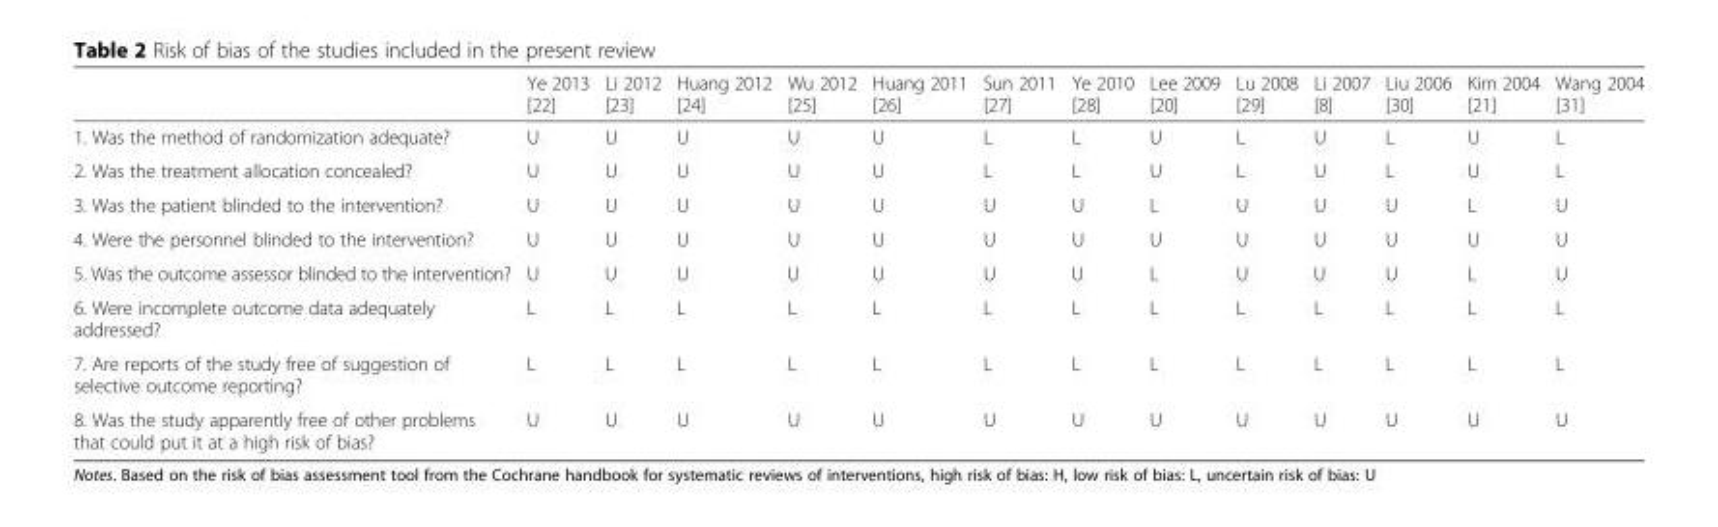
<table><thead><tr><td></td><td>Ye 2013 [22]</td><td>Li 2012 [23]</td><td>Huang 2012 [24]</td><td>Wu 2012 [25]</td><td>Huang 2011 [26]</td><td>Sun 2011 [27]</td><td>Ye 2010 [28]</td><td>Lee 2009 [20]</td><td>Lu 2008 [29]</td><td>Li 2007 [8]</td><td>Liu 2006 [30]</td><td>Kim 2004 [21]</td><td>Wang 2004 [31]</td></tr></thead><tbody><tr><td>1. Was the method of randomization adequate?</td><td>U</td><td>U</td><td>U</td><td>U</td><td>U</td><td>L</td><td>L</td><td>U</td><td>L</td><td>U</td><td>L</td><td>U</td><td>L</td></tr><tr><td>2. Was the treatment allocation concealed?</td><td>U</td><td>U</td><td>U</td><td>U</td><td>U</td><td>L</td><td>L</td><td>U</td><td>L</td><td>U</td><td>L</td><td>U</td><td>L</td></tr><tr><td>3. Was the patient blinded to the intervention?</td><td>U</td><td>U</td><td>U</td><td>U</td><td>U</td><td>U</td><td>U</td><td>L</td><td>U</td><td>U</td><td>U</td><td>L</td><td>U</td></tr><tr><td>4. Were the personnel blinded to the intervention?</td><td>U</td><td>U</td><td>U</td><td>U</td><td>U</td><td>U</td><td>U</td><td>U</td><td>U</td><td>U</td><td>U</td><td>U</td><td>U</td></tr><tr><td>5. Was the outcome assessor blinded to the intervention?</td><td>U</td><td>U</td><td>U</td><td>U</td><td>U</td><td>U</td><td>U</td><td>L</td><td>U</td><td>U</td><td>U</td><td>L</td><td>U</td></tr><tr><td>6. Were incomplete outcome data adequately addressed?</td><td>L</td><td>L</td><td>L</td><td>L</td><td>L</td><td>L</td><td>L</td><td>L</td><td>L</td><td>L</td><td>L</td><td>L</td><td>L</td></tr><tr><td>7. Are reports of the study free of suggestion of selective outcome reporting?</td><td>L</td><td>L</td><td>L</td><td>L</td><td>L</td><td>L</td><td>L</td><td>L</td><td>L</td><td>L</td><td>L</td><td>L</td><td>L</td></tr><tr><td>8. Was the study apparently free of other problems that could put it at a high risk of bias?</td><td>U</td><td>U</td><td>U</td><td>U</td><td>U</td><td>U</td><td>U</td><td>U</td><td>U</td><td>U</td><td>U</td><td>U</td><td>U</td></tr></tbody></table>